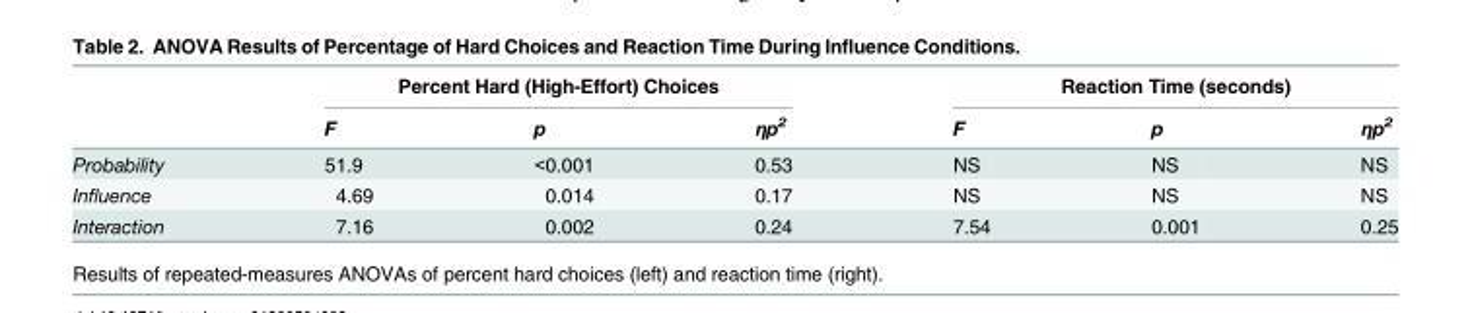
<table><thead><tr><td rowspan="2"></td><td colspan="3">Percent Hard (High-Effort) Choices</td><td colspan="3">Reaction Time (seconds)</td></tr><tr><td>F</td><td>p</td><td>ηp<sup>2</sup></td><td>F</td><td>p</td><td>ηp<sup>2</sup></td></tr></thead><tbody><tr><td>Probability</td><td>51.9</td><td>&lt;0.001</td><td>0.53</td><td>NS</td><td>NS</td><td>NS</td></tr><tr><td>Influence</td><td>4.69</td><td>0.014</td><td>0.17</td><td>NS</td><td>NS</td><td>NS</td></tr><tr><td>Interaction</td><td>7.16</td><td>0.002</td><td>0.24</td><td>7.54</td><td>0.001</td><td>0.25</td></tr></tbody></table>